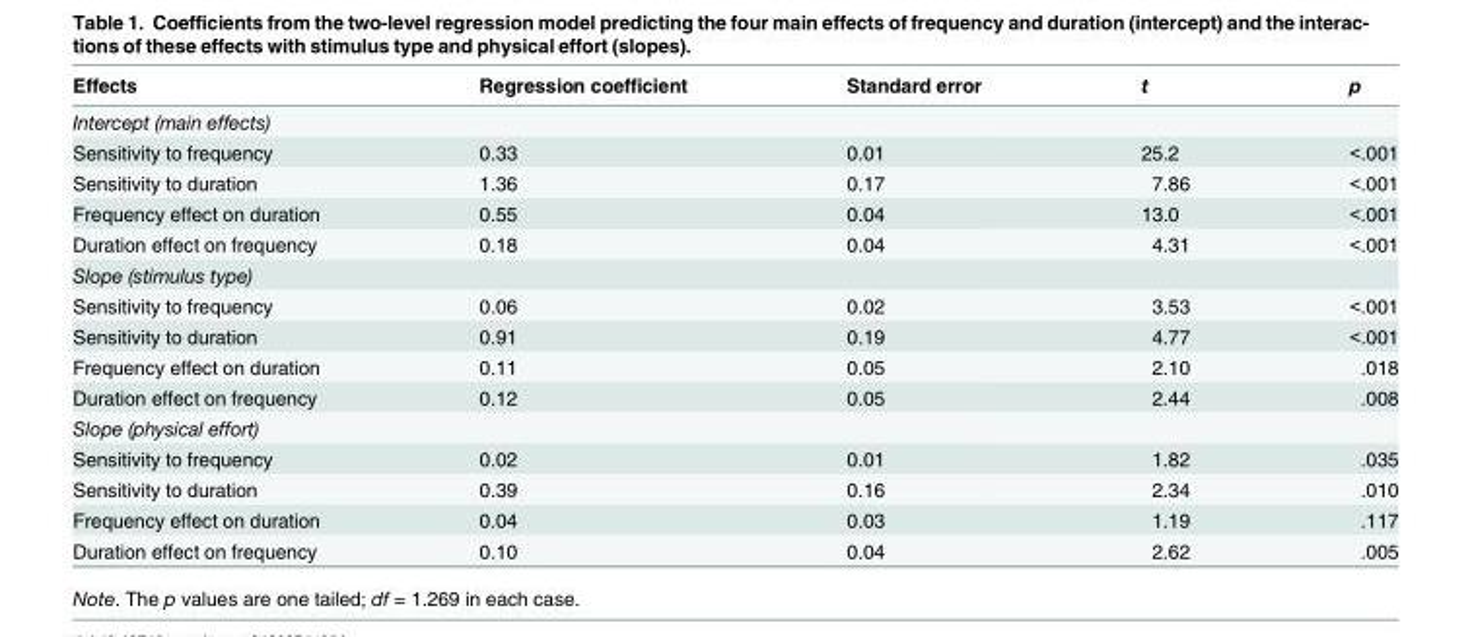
<table><thead><tr><td>Effects</td><td>Regression coefficient</td><td>Standard error</td><td>t</td><td>p</td></tr></thead><tbody><tr><td colspan="5">Intercept (main effects)</td></tr><tr><td>Sensitivity to frequency</td><td>0.33</td><td>0.01</td><td>25.2</td><td>&lt;.001</td></tr><tr><td>Sensitivity to duration</td><td>1.36</td><td>0.17</td><td>7.86</td><td>&lt;.001</td></tr><tr><td>Frequency effect on duration</td><td>0.55</td><td>0.04</td><td>13.0</td><td>&lt;.001</td></tr><tr><td>Duration effect on frequency</td><td>0.18</td><td>0.04</td><td>4.31</td><td>&lt;.001</td></tr><tr><td colspan="5">Slope (stimulus type)</td></tr><tr><td>Sensitivity to frequency</td><td>0.06</td><td>0.02</td><td>3.53</td><td>&lt;.001</td></tr><tr><td>Sensitivity to duration</td><td>0.91</td><td>0.19</td><td>4.77</td><td>&lt;.001</td></tr><tr><td>Frequency effect on duration</td><td>0.11</td><td>0.05</td><td>2.10</td><td>.018</td></tr><tr><td>Duration effect on frequency</td><td>0.12</td><td>0.05</td><td>2.44</td><td>.008</td></tr><tr><td colspan="5">Slope (physical effort)</td></tr><tr><td>Sensitivity to frequency</td><td>0.02</td><td>0.01</td><td>1.82</td><td>.035</td></tr><tr><td>Sensitivity to duration</td><td>0.39</td><td>0.16</td><td>2.34</td><td>.010</td></tr><tr><td>Frequency effect on duration</td><td>0.04</td><td>0.03</td><td>1.19</td><td>.117</td></tr><tr><td>Duration effect on frequency</td><td>0.10</td><td>0.04</td><td>2.62</td><td>.005</td></tr></tbody></table>